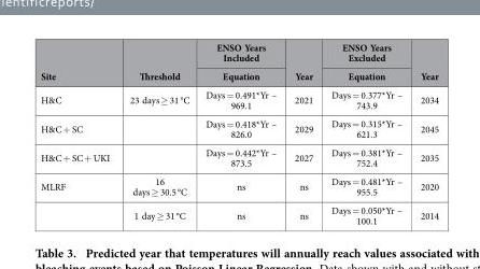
<table><thead><tr><td rowspan="2">Site</td><td rowspan="2">Threshold</td><td rowspan="2">ENSO Years Included Equation</td><td rowspan="2">Year</td><td rowspan="2">ENSO Years Excluded Equation</td><td rowspan="2">Year</td></tr><tr></tr></thead><tbody><tr><td>H&amp;C</td><td>23 days ≥ 31 °C</td><td>Days = 0.491*Yr – 969.1</td><td>2021</td><td>Days = 0.377*Yr – 743.9</td><td>2034</td></tr><tr><td>H&amp;C + SC</td><td></td><td>Days = 0.418*Yr – 826.0</td><td>2029</td><td>Days = 0.315*Yr – 621.3</td><td>2045</td></tr><tr><td>H&amp;C + SC + UKI</td><td></td><td>Days = 0.442*Yr – 873.5</td><td>2027</td><td>Days = 0.381*Yr – 752.4</td><td>2035</td></tr><tr><td rowspan="2">MLRF</td><td>16 days ≥ 30.5 °C</td><td>ns</td><td>ns</td><td>Days = 0.481*Yr – 955.5</td><td>2020</td></tr><tr><td>1 day ≥ 31 °C</td><td>ns</td><td>ns</td><td>Days = 0.050*Yr – 100.1</td><td>2014</td></tr></tbody></table>